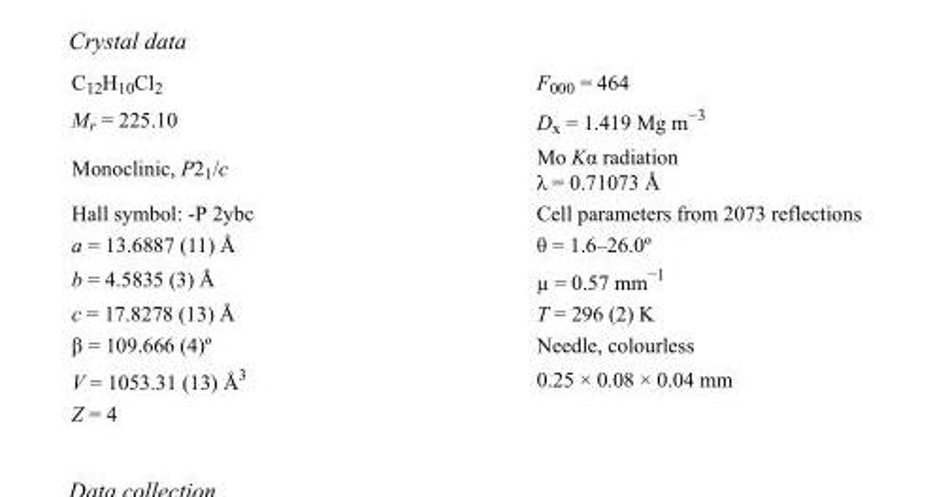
<table><tbody><tr><td>C<sub>12</sub>H<sub>10</sub>Cl<sub>2</sub></td><td>F<sub>000</sub> = 464</td></tr><tr><td>M<sub>r</sub> = 225.10</td><td>D<sub>x</sub> = 1.419 Mg m<sup>−3</sup></td></tr><tr><td>Monoclinic, P2<sub>1</sub>/c</td><td>Mo Kα radiation λ = 0.71073 Å</td></tr><tr><td>Hall symbol: -P 2ybc</td><td>Cell parameters from 2073 reflections</td></tr><tr><td>a = 13.6887 (11) Å</td><td>θ = 1.6–26.0º</td></tr><tr><td>b = 4.5835 (3) Å</td><td>µ = 0.57 mm<sup>−1</sup></td></tr><tr><td>c = 17.8278 (13) Å</td><td>T = 296 (2) K</td></tr><tr><td>β = 109.666 (4)º</td><td>Needle, colourless</td></tr><tr><td>V = 1053.31 (13) Å<sup>3</sup></td><td>0.25 × 0.08 × 0.04 mm</td></tr><tr><td>Z = 4</td><td></td></tr></tbody></table>